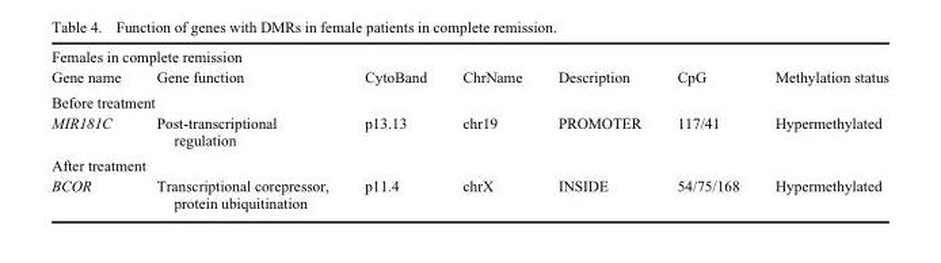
<table><tbody><tr><td colspan="7">Females in complete remission</td></tr><tr><td>Gene name</td><td>Gene function</td><td>CytoBand</td><td>ChrName</td><td>Description</td><td>CpG</td><td>Methylation status</td></tr><tr><td colspan="7">Before treatment</td></tr><tr><td>MIR181C</td><td>Post-transcriptional regulation</td><td>p13.13</td><td>chr19</td><td>PROMOTER</td><td>117/41</td><td>Hypermethylated</td></tr><tr><td colspan="7">After treatment</td></tr><tr><td>BCOR</td><td>Transcriptional corepressor, protein ubiquitination</td><td>p11.4</td><td>chrX</td><td>INSIDE</td><td>54/75/168</td><td>Hypermethylated</td></tr></tbody></table>